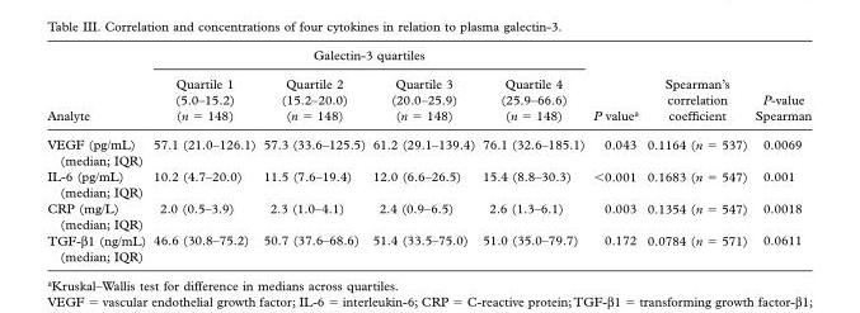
<table><thead><tr><td rowspan="2">Analyte</td><td colspan="4">galectin-3 quartiles</td><td rowspan="2">P value<sup>a</sup></td><td rowspan="2">spearman’s correlation coefficient</td><td rowspan="2">P-value spearman</td></tr><tr><td>Quartile 1 (5.0–15.2) (n = 148)</td><td>Quartile 2 (15.2–20.0) (n = 148)</td><td>Quartile 3 (20.0–25.9) (n = 148)</td><td>Quartile 4 (25.9–66.6) (n = 148)</td></tr></thead><tbody><tr><td>vegf (pg/ml) (median; iQR)</td><td>57.1 (21.0–126.1)</td><td>57.3 (33.6–125.5)</td><td>61.2 (29.1–139.4)</td><td>76.1 (32.6–185.1)</td><td>0.043</td><td>0.1164 (n = 537)</td><td>0.0069</td></tr><tr><td>il-6 (pg/ml) (median; iQR)</td><td>10.2 (4.7–20.0)</td><td>11.5 (7.6–19.4)</td><td>12.0 (6.6–26.5)</td><td>15.4 (8.8–30.3)</td><td>&lt;0.001</td><td>0.1683 (n = 547)</td><td>0.001</td></tr><tr><td>CRP (mg/l) (median; iQR)</td><td>2.0 (0.5–3.9)</td><td>2.3 (1.0–4.1)</td><td>2.4 (0.9–6.5)</td><td>2.6 (1.3–6.1)</td><td>0.003</td><td>0.1354 (n = 547)</td><td>0.0018</td></tr><tr><td>Tgf-β1 (ng/ml) (median; iQR)</td><td>46.6 (30.8–75.2)</td><td>50.7 (37.6–68.6)</td><td>51.4 (33.5–75.0)</td><td>51.0 (35.0–79.7)</td><td>0.172</td><td>0.0784 (n = 571)</td><td>0.0611</td></tr></tbody></table>